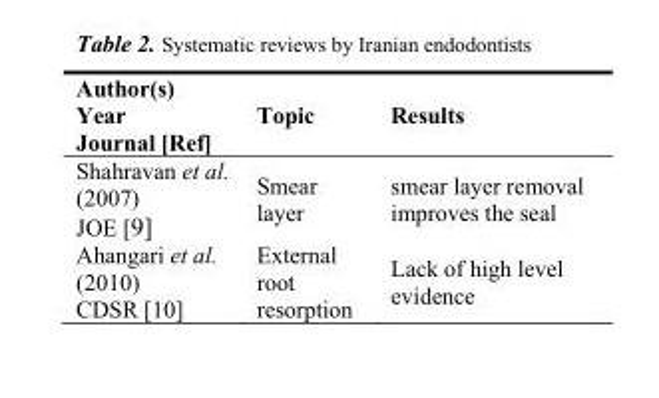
<table><thead><tr><td>Author(s) Year Journal [Ref]</td><td>Topic</td><td>Results</td></tr></thead><tbody><tr><td>Shahravan et al. (2007) JOE [9]</td><td>Smear layer</td><td>smear layer removal improves the seal</td></tr><tr><td>Ahangari et al. (2010) CDSR [10]</td><td>External root resorption</td><td>Lack of high level evidence</td></tr></tbody></table>